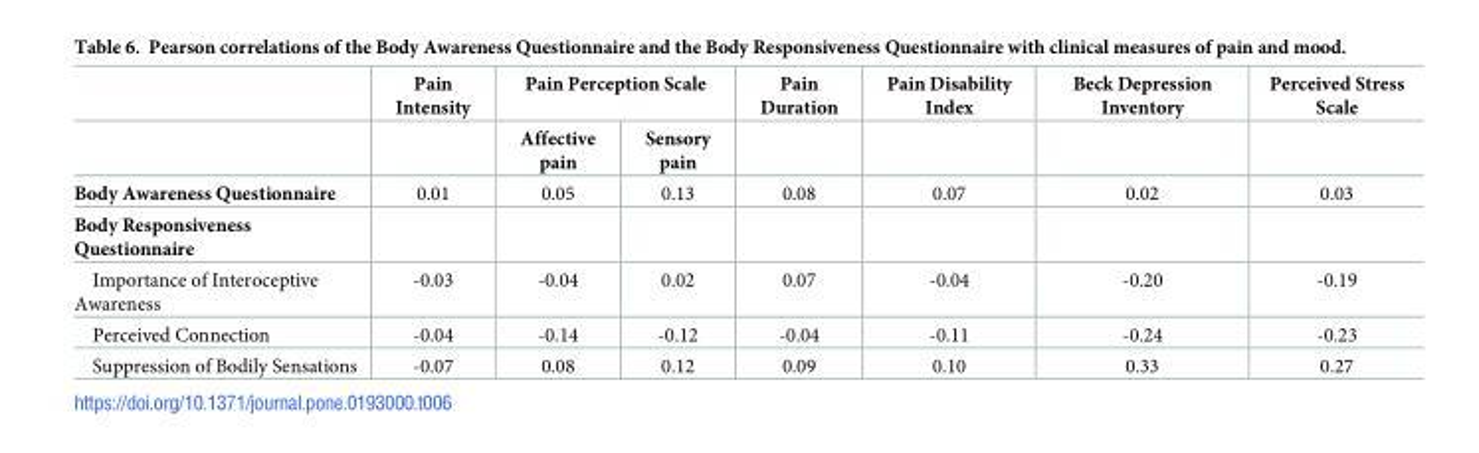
<table><thead><tr><td rowspan="2"></td><td rowspan="2">Pain Intensity</td><td colspan="2">Pain Perception Scale</td><td rowspan="2">Pain Duration</td><td rowspan="2">Pain Disability Index</td><td rowspan="2">Beck Depression Inventory</td><td rowspan="2">Perceived Stress Scale</td></tr><tr><td>Affective pain</td><td>Sensory pain</td></tr></thead><tbody><tr><td>Body Awareness Questionnaire</td><td>0.01</td><td>0.05</td><td>0.13</td><td>0.08</td><td>0.07</td><td>0.02</td><td>0.03</td></tr><tr><td colspan="8">Body Responsiveness Questionnaire</td></tr><tr><td>Importance of Interoceptive Awareness</td><td>-0.03</td><td>-0.04</td><td>0.02</td><td>0.07</td><td>-0.04</td><td>-0.20</td><td>-0.19</td></tr><tr><td>Perceived Connection</td><td>-0.04</td><td>-0.14</td><td>-0.12</td><td>-0.04</td><td>-0.11</td><td>-0.24</td><td>-0.23</td></tr><tr><td>Suppression of Bodily Sensations</td><td>-0.07</td><td>0.08</td><td>0.12</td><td>0.09</td><td>0.10</td><td>0.33</td><td>0.27</td></tr></tbody></table>